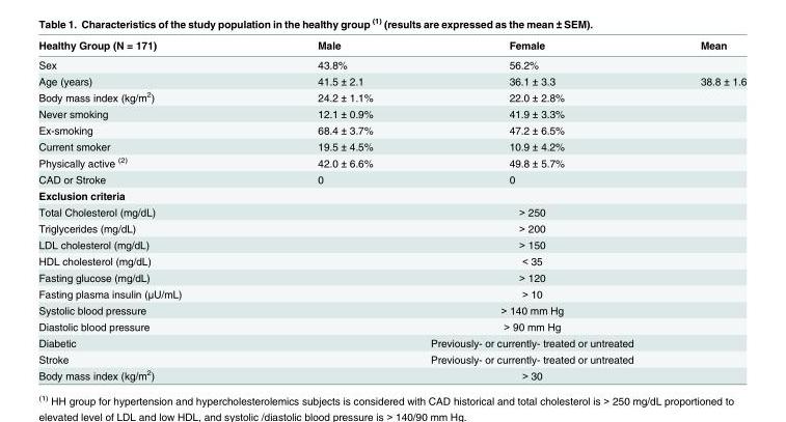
<table><thead><tr><td>Healthy Group (N = 171)</td><td>Male</td><td>Female</td><td>Mean</td></tr></thead><tbody><tr><td>Sex</td><td>43.8%</td><td>56.2%</td><td></td></tr><tr><td>Age (years)</td><td>41.5 ± 2.1</td><td>36.1 ± 3.3</td><td>38.8 ± 1.6</td></tr><tr><td>Body mass index (kg/m<sup>2</sup>)</td><td>24.2 ± 1.1%</td><td>22.0 ± 2.8%</td><td></td></tr><tr><td>Never smoking</td><td>12.1 ± 0.9%</td><td>41.9 ± 3.3%</td><td></td></tr><tr><td>Ex-smoking</td><td>68.4 ± 3.7%</td><td>47.2 ± 6.5%</td><td></td></tr><tr><td>Current smoker</td><td>19.5 ± 4.5%</td><td>10.9 ± 4.2%</td><td></td></tr><tr><td>Physically active <sup>(2)</sup></td><td>42.0 ± 6.6%</td><td>49.8 ± 5.7%</td><td></td></tr><tr><td>CAD or Stroke</td><td>0</td><td>0</td><td></td></tr><tr><td colspan="4">Exclusion criteria</td></tr><tr><td>Total Cholesterol (mg/dL)</td><td colspan="3">&gt; 250</td></tr><tr><td>Triglycerides (mg/dL)</td><td colspan="3">&gt; 200</td></tr><tr><td>LDL cholesterol (mg/dL)</td><td colspan="3">&gt; 150</td></tr><tr><td>HDL cholesterol (mg/dL)</td><td colspan="3">&lt; 35</td></tr><tr><td>Fasting glucose (mg/dL)</td><td colspan="3">&gt; 120</td></tr><tr><td>Fasting plasma insulin (μU/mL)</td><td colspan="3">&gt; 10</td></tr><tr><td>Systolic blood pressure</td><td colspan="3">&gt; 140 mm Hg</td></tr><tr><td>Diastolic blood pressure</td><td colspan="3">&gt; 90 mm Hg</td></tr><tr><td>Diabetic</td><td colspan="3">Previously- or currently- treated or untreated</td></tr><tr><td>Stroke</td><td colspan="3">Previously- or currently- treated or untreated</td></tr><tr><td>Body mass index (kg/m<sup>2</sup>)</td><td colspan="3">&gt; 30</td></tr></tbody></table>